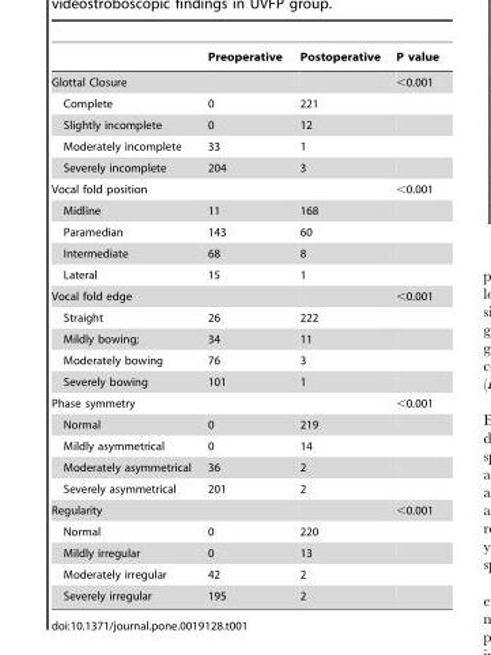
<table><thead><tr><td></td><td>Preoperative</td><td>Postoperative</td><td>P value</td></tr></thead><tbody><tr><td>Glottal Closure</td><td></td><td></td><td>&lt;0.001</td></tr><tr><td>Complete</td><td>0</td><td>221</td><td></td></tr><tr><td>Slightly incomplete</td><td>0</td><td>12</td><td></td></tr><tr><td>Moderately incomplete</td><td>33</td><td>1</td><td></td></tr><tr><td>Severely incomplete</td><td>204</td><td>3</td><td></td></tr><tr><td>Vocal fold position</td><td></td><td></td><td>&lt;0.001</td></tr><tr><td>Midline</td><td>11</td><td>168</td><td></td></tr><tr><td>Paramedian</td><td>143</td><td>60</td><td></td></tr><tr><td>Intermediate</td><td>68</td><td>8</td><td></td></tr><tr><td>Lateral</td><td>15</td><td>1</td><td></td></tr><tr><td>Vocal fold edge</td><td></td><td></td><td>&lt;0.001</td></tr><tr><td>Straight</td><td>26</td><td>222</td><td></td></tr><tr><td>Mildly bowing;</td><td>34</td><td>11</td><td></td></tr><tr><td>Moderately bowing</td><td>76</td><td>3</td><td></td></tr><tr><td>Severely bowing</td><td>101</td><td>1</td><td></td></tr><tr><td>Phase symmetry</td><td></td><td></td><td>&lt;0.001</td></tr><tr><td>Normal</td><td>0</td><td>219</td><td></td></tr><tr><td>Mildly asymmetrical</td><td>0</td><td>14</td><td></td></tr><tr><td>Moderately asymmetrical</td><td>36</td><td>2</td><td></td></tr><tr><td>Severely asymmetrical</td><td>201</td><td>2</td><td></td></tr><tr><td>Regularity</td><td></td><td></td><td>&lt;0.001</td></tr><tr><td>Normal</td><td>0</td><td>220</td><td></td></tr><tr><td>Mildly irregular</td><td>0</td><td>13</td><td></td></tr><tr><td>Moderately irregular</td><td>42</td><td>2</td><td></td></tr><tr><td>Severely irregular</td><td>195</td><td>2</td><td></td></tr></tbody></table>